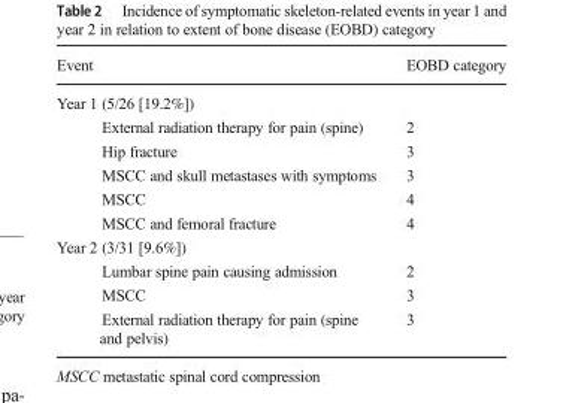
<table><thead><tr><td>Event</td><td>EOBD category</td></tr></thead><tbody><tr><td colspan="2">Year 1 (5/26 [19.2%])</td></tr><tr><td>External radiation therapy for pain (spine)</td><td>2</td></tr><tr><td>Hip fracture</td><td>3</td></tr><tr><td>MSCC and skull metastases with symptoms</td><td>3</td></tr><tr><td>MSCC</td><td>4</td></tr><tr><td>MSCC and femoral fracture</td><td>4</td></tr><tr><td colspan="2">Year 2 (3/31 [9.6%])</td></tr><tr><td>Lumbar spine pain causing admission</td><td>2</td></tr><tr><td>MSCC</td><td>3</td></tr><tr><td>External radiation therapy for pain (spine and pelvis)</td><td>3</td></tr></tbody></table>